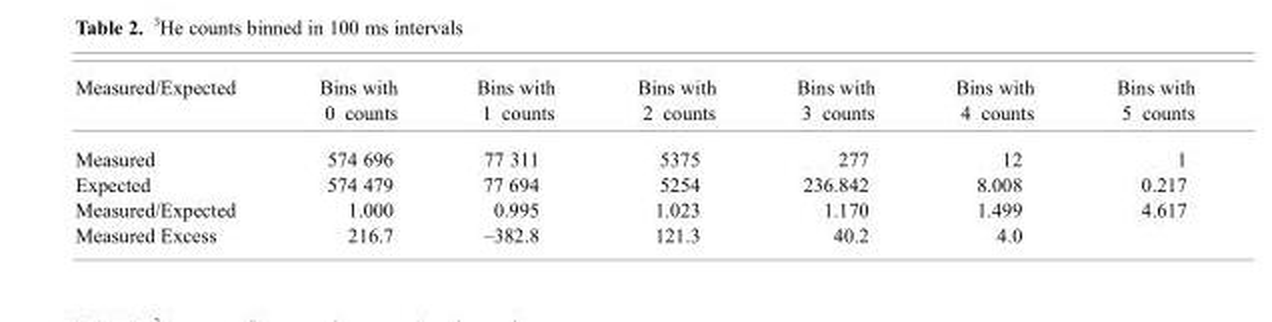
<table><thead><tr><td>Measured/Expected</td><td>Bins with 0 counts</td><td>Bins with 1 counts</td><td>Bins with 2 counts</td><td>Bins with 3 counts</td><td>Bins with 4 counts</td><td>Bins with 5 counts</td></tr></thead><tbody><tr><td>Measured</td><td>574 696</td><td>77 311</td><td>5375</td><td>277</td><td>12</td><td>1</td></tr><tr><td>Expected</td><td>574 479</td><td>77 694</td><td>5254</td><td>236.842</td><td>8.008</td><td>0.217</td></tr><tr><td>Measured/Expected</td><td>1.000</td><td>0.995</td><td>1.023</td><td>1.170</td><td>1.499</td><td>4.617</td></tr><tr><td>Measured Excess</td><td>216.7</td><td>–382.8</td><td>121.3</td><td>40.2</td><td>4.0</td><td></td></tr></tbody></table>